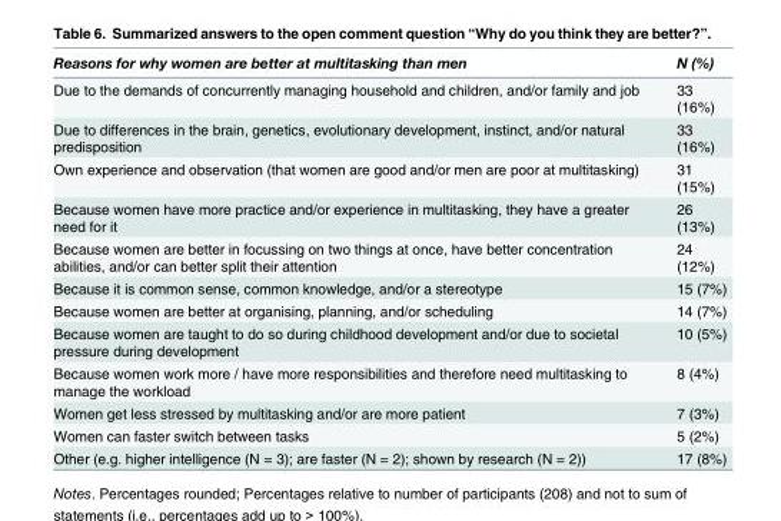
<table><thead><tr><td>Reasons for why women are better at multitasking than men</td><td>N (%)</td></tr></thead><tbody><tr><td>Due to the demands of concurrently managing household and children, and/or family and job</td><td>33 (16%)</td></tr><tr><td>Due to differences in the brain, genetics, evolutionary development, instinct, and/or natural predisposition</td><td>33 (16%)</td></tr><tr><td>Own experience and observation (that women are good and/or men are poor at multitasking)</td><td>31 (15%)</td></tr><tr><td>Because women have more practice and/or experience in multitasking, they have a greater need for it</td><td>26 (13%)</td></tr><tr><td>Because women are better in focussing on two things at once, have better concentration abilities, and/or can better split their attention</td><td>24 (12%)</td></tr><tr><td>Because it is common sense, common knowledge, and/or a stereotype</td><td>15 (7%)</td></tr><tr><td>Because women are better at organising, planning, and/or scheduling</td><td>14 (7%)</td></tr><tr><td>Because women are taught to do so during childhood development and/or due to societal pressure during development</td><td>10 (5%)</td></tr><tr><td>Because women work more / have more responsibilities and therefore need multitasking to manage the workload</td><td>8 (4%)</td></tr><tr><td>Women get less stressed by multitasking and/or are more patient</td><td>7 (3%)</td></tr><tr><td>Women can faster switch between tasks</td><td>5 (2%)</td></tr><tr><td>Other (e.g. higher intelligence (N = 3); are faster (N = 2); shown by research (N = 2))</td><td>17 (8%)</td></tr></tbody></table>